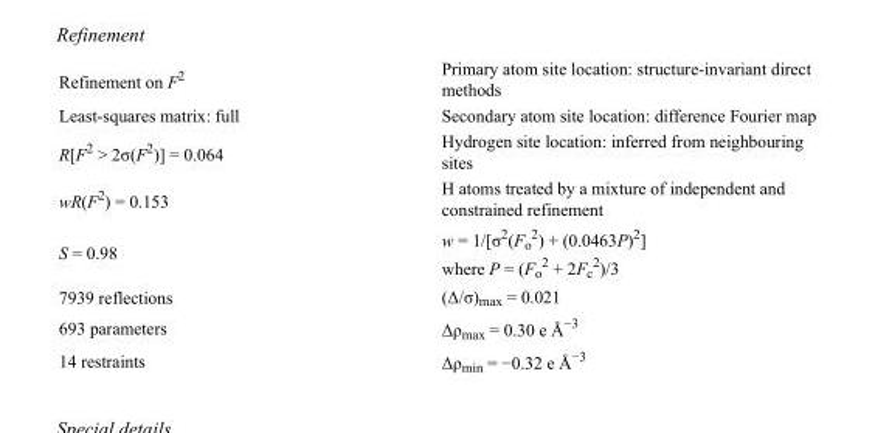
<table><tbody><tr><td>Refinement on F<sup>2</sup></td><td>Primary atom site location: structure-invariant direct methods</td></tr><tr><td>Least-squares matrix: full</td><td>Secondary atom site location: difference Fourier map</td></tr><tr><td>R[F<sup>2</sup> &gt; 2σ(F<sup>2</sup>)] = 0.064</td><td>Hydrogen site location: inferred from neighbouring sites</td></tr><tr><td>wR(F<sup>2</sup>) = 0.153</td><td>H atoms treated by a mixture of independent and constrained refinement</td></tr><tr><td>S = 0.98</td><td>w = 1/[σ<sup>2</sup>(F<sub>o</sub> <sup>2</sup>) + (0.0463P)<sup>2</sup>] where P = (F<sub>o</sub> <sup>2</sup> + 2F<sub>c</sub> <sup>2</sup>)/3</td></tr><tr><td>7939 reflections</td><td>(Δ/σ)<sub>max</sub> = 0.021</td></tr><tr><td>693 parameters</td><td>Δρ<sub>max</sub> = 0.30 e Å<sup>−3</sup></td></tr><tr><td>14 restraints</td><td>Δρmin = −0.32 e Å−3</td></tr></tbody></table>